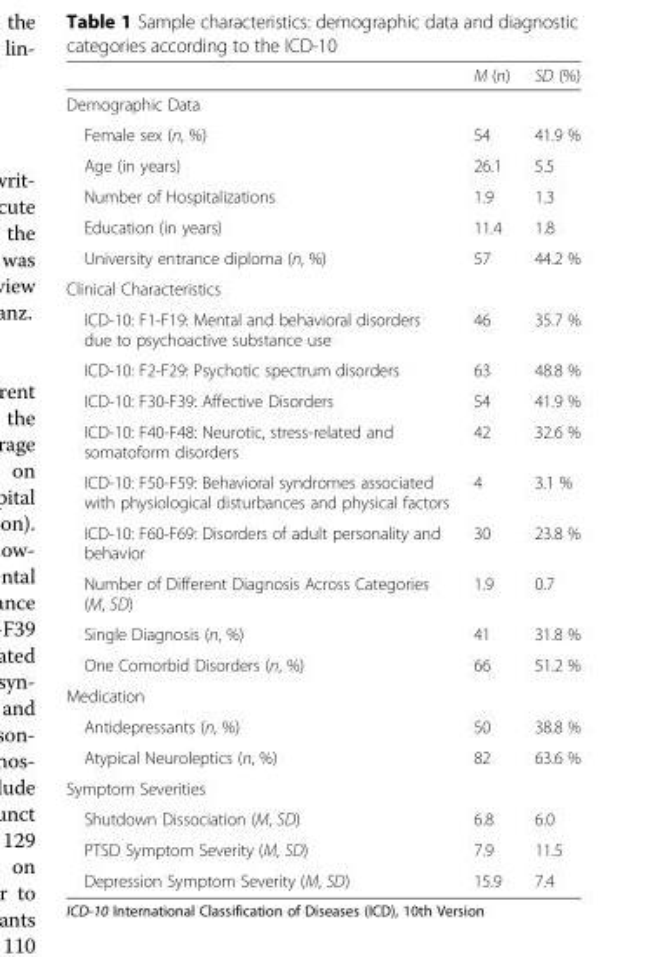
<table><thead><tr><td></td><td>M (n)</td><td>SD (%)</td></tr></thead><tbody><tr><td colspan="3">Demographic Data</td></tr><tr><td>Female sex (n, %)</td><td>54</td><td>41.9 %</td></tr><tr><td>Age (in years)</td><td>26.1</td><td>5.5</td></tr><tr><td>Number of Hospitalizations</td><td>1.9</td><td>1.3</td></tr><tr><td>Education (in years)</td><td>11.4</td><td>1.8</td></tr><tr><td>University entrance diploma (n, %)</td><td>57</td><td>44.2 %</td></tr><tr><td colspan="3">Clinical Characteristics</td></tr><tr><td>ICD-10: F1-F19: Mental and behavioral disorders due to psychoactive substance use</td><td>46</td><td>35.7 %</td></tr><tr><td>ICD-10: F2-F29: Psychotic spectrum disorders</td><td>63</td><td>48.8 %</td></tr><tr><td>ICD-10: F30-F39: Affective Disorders</td><td>54</td><td>41.9 %</td></tr><tr><td>ICD-10: F40-F48: Neurotic, stress-related and somatoform disorders</td><td>42</td><td>32.6 %</td></tr><tr><td>ICD-10: F50-F59: Behavioral syndromes associated with physiological disturbances and physical factors</td><td>4</td><td>3.1 %</td></tr><tr><td>ICD-10: F60-F69: Disorders of adult personality and behavior</td><td>30</td><td>23.8 %</td></tr><tr><td>Number of Different Diagnosis Across Categories (M, SD)</td><td>1.9</td><td>0.7</td></tr><tr><td>Single Diagnosis (n, %)</td><td>41</td><td>31.8 %</td></tr><tr><td>One Comorbid Disorders (n, %)</td><td>66</td><td>51.2 %</td></tr><tr><td colspan="3">Medication</td></tr><tr><td>Antidepressants (n, %)</td><td>50</td><td>38.8 %</td></tr><tr><td>Atypical Neuroleptics (n, %)</td><td>82</td><td>63.6 %</td></tr><tr><td colspan="3">Symptom Severities</td></tr><tr><td>Shutdown Dissociation (M, SD)</td><td>6.8</td><td>6.0</td></tr><tr><td>PTSD Symptom Severity (M, SD)</td><td>7.9</td><td>11.5</td></tr><tr><td>Depression Symptom Severity (M, SD)</td><td>15.9</td><td>7.4</td></tr></tbody></table>